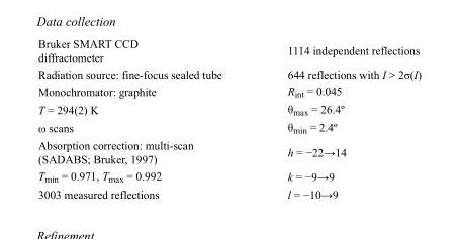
<table><tbody><tr><td>Bruker SMART CCD diffractometer</td><td>1114 independent reflections</td></tr><tr><td>Radiation source: fine-focus sealed tube</td><td>644 reflections with I &gt; 2σ(I)</td></tr><tr><td>Monochromator: graphite</td><td>R<sub>int</sub> = 0.045</td></tr><tr><td>T = 294(2) K</td><td>θ<sub>max</sub> = 26.4º</td></tr><tr><td>ω scans</td><td>θ<sub>min</sub> = 2.4º</td></tr><tr><td>Absorption correction: multi-scan (SADABS; Bruker, 1997)</td><td>h = −22→14</td></tr><tr><td>T<sub>min</sub> = 0.971, T<sub>max</sub> = 0.992</td><td>k = −9→9</td></tr><tr><td>3003 measured reflections</td><td>l = −10→9</td></tr></tbody></table>